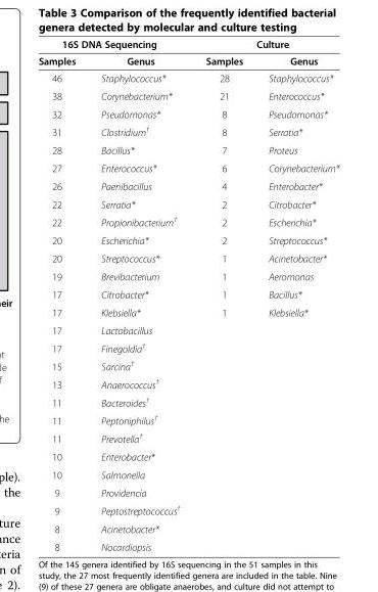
<table><thead><tr><td colspan="2">16S DNA Sequencing</td><td colspan="2">Culture</td></tr><tr><td>Samples</td><td>Genus</td><td>Samples</td><td>Genus</td></tr></thead><tbody><tr><td>46</td><td>Staphylococcus*</td><td>28</td><td>Staphylococcus*</td></tr><tr><td>38</td><td>Corynebacterium*</td><td>21</td><td>Enterococcus*</td></tr><tr><td>32</td><td>Pseudomonas*</td><td>8</td><td>Pseudomonas*</td></tr><tr><td>31</td><td>Clostridium<sup>†</sup></td><td>8</td><td>Serratia*</td></tr><tr><td>28</td><td>Bacillus*</td><td>7</td><td>Proteus</td></tr><tr><td>27</td><td>Enterococcus*</td><td>6</td><td>Corynebacterium*</td></tr><tr><td>26</td><td>Paenibacillus</td><td>4</td><td>Enterobacter*</td></tr><tr><td>22</td><td>Serratia*</td><td>2</td><td>Citrobacter*</td></tr><tr><td>22</td><td>Propionibacterium<sup>†</sup></td><td>2</td><td>Escherichia*</td></tr><tr><td>20</td><td>Escherichia*</td><td>2</td><td>Streptococcus*</td></tr><tr><td>20</td><td>Streptococcus*</td><td>1</td><td>Acinetobacter*</td></tr><tr><td>19</td><td>Brevibacterium</td><td>1</td><td>Aeromonas</td></tr><tr><td>17</td><td>Citrobacter*</td><td>1</td><td>Bacillus*</td></tr><tr><td>17</td><td>Klebsiella*</td><td>1</td><td>Klebsiella*</td></tr><tr><td>17</td><td>Lactobacillus</td><td></td><td></td></tr><tr><td>17</td><td>Finegoldia<sup>†</sup></td><td></td><td></td></tr><tr><td>15</td><td>Sarcina<sup>†</sup></td><td></td><td></td></tr><tr><td>13</td><td>Anaerococcus<sup>†</sup></td><td></td><td></td></tr><tr><td>11</td><td>Bacteroides<sup>†</sup></td><td></td><td></td></tr><tr><td>11</td><td>Peptoniphilus<sup>†</sup></td><td></td><td></td></tr><tr><td>11</td><td>Prevotella<sup>†</sup></td><td></td><td></td></tr><tr><td>10</td><td>Enterobacter*</td><td></td><td></td></tr><tr><td>10</td><td>Salmonella</td><td></td><td></td></tr><tr><td>9</td><td>Providencia</td><td></td><td></td></tr><tr><td>9</td><td>Peptostreptococcus<sup>†</sup></td><td></td><td></td></tr><tr><td>8</td><td>Acinetobacter*</td><td></td><td></td></tr><tr><td>8</td><td>Nocardiopsis</td><td></td><td></td></tr></tbody></table>